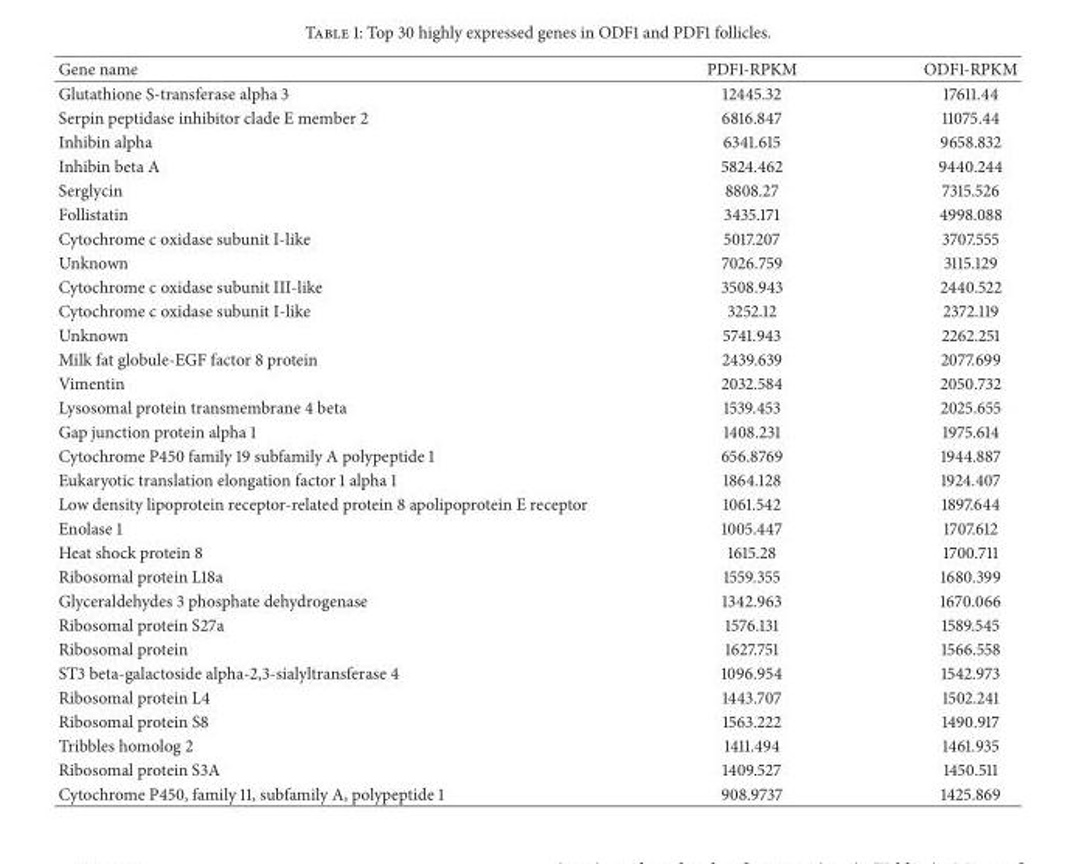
<table><thead><tr><td>Gene name</td><td>PDF1-RPKM</td><td>ODF1-RPKM</td></tr></thead><tbody><tr><td>Glutathione S-transferase alpha 3</td><td>12445.32</td><td>17611.44</td></tr><tr><td>Serpin peptidase inhibitor clade E member 2</td><td>6816.847</td><td>11075.44</td></tr><tr><td>Inhibin alpha</td><td>6341.615</td><td>9658.832</td></tr><tr><td>Inhibin beta A</td><td>5824.462</td><td>9440.244</td></tr><tr><td>Serglycin</td><td>8808.27</td><td>7315.526</td></tr><tr><td>Follistatin</td><td>3435.171</td><td>4998.088</td></tr><tr><td>Cytochrome c oxidase subunit I-like</td><td>5017.207</td><td>3707.555</td></tr><tr><td>Unknown</td><td>7026.759</td><td>3115.129</td></tr><tr><td>Cytochrome c oxidase subunit III-like</td><td>3508.943</td><td>2440.522</td></tr><tr><td>Cytochrome c oxidase subunit I-like</td><td>3252.12</td><td>2372.119</td></tr><tr><td>Unknown</td><td>5741.943</td><td>2262.251</td></tr><tr><td>Milk fat globule-EGF factor 8 protein</td><td>2439.639</td><td>2077.699</td></tr><tr><td>Vimentin</td><td>2032.584</td><td>2050.732</td></tr><tr><td>Lysosomal protein transmembrane 4 beta</td><td>1539.453</td><td>2025.655</td></tr><tr><td>Gap junction protein alpha 1</td><td>1408.231</td><td>1975.614</td></tr><tr><td>Cytochrome P450 family 19 subfamily A polypeptide 1</td><td>656.8769</td><td>1944.887</td></tr><tr><td>Eukaryotic translation elongation factor 1 alpha 1</td><td>1864.128</td><td>1924.407</td></tr><tr><td>Low density lipoprotein receptor-related protein 8 apolipoprotein E receptor</td><td>1061.542</td><td>1897.644</td></tr><tr><td>Enolase 1</td><td>1005.447</td><td>1707.612</td></tr><tr><td>Heat shock protein 8</td><td>1615.28</td><td>1700.711</td></tr><tr><td>Ribosomal protein L18a</td><td>1559.355</td><td>1680.399</td></tr><tr><td>Glyceraldehydes 3 phosphate dehydrogenase</td><td>1342.963</td><td>1670.066</td></tr><tr><td>Ribosomal protein S27a</td><td>1576.131</td><td>1589.545</td></tr><tr><td>Ribosomal protein</td><td>1627.751</td><td>1566.558</td></tr><tr><td>ST3 beta-galactoside alpha-2,3-sialyltransferase 4</td><td>1096.954</td><td>1542.973</td></tr><tr><td>Ribosomal protein L4</td><td>1443.707</td><td>1502.241</td></tr><tr><td>Ribosomal protein S8</td><td>1563.222</td><td>1490.917</td></tr><tr><td>Tribbles homolog 2</td><td>1411.494</td><td>1461.935</td></tr><tr><td>Ribosomal protein S3A</td><td>1409.527</td><td>1450.511</td></tr><tr><td>Cytochrome P450, family 11, subfamily A, polypeptide 1</td><td>908.9737</td><td>1425.869</td></tr></tbody></table>